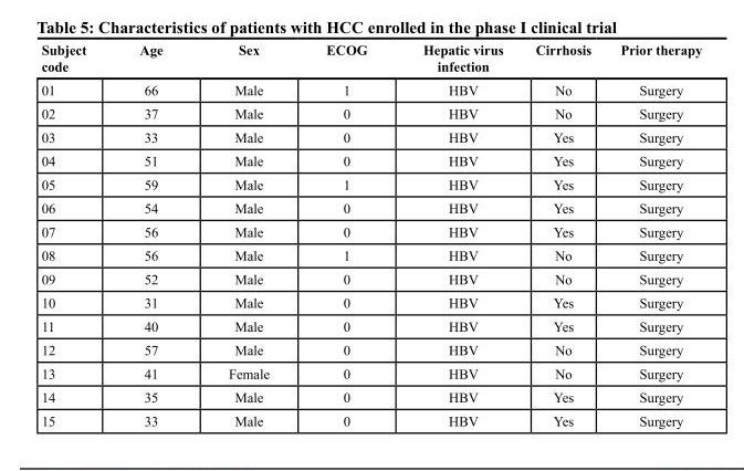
<table><thead><tr><td>Subject code</td><td>Age</td><td>Sex</td><td>ECOG</td><td>Hepatic virus infection</td><td>Cirrhosis</td><td>Prior therapy</td></tr></thead><tbody><tr><td>01</td><td>66</td><td>Male</td><td>1</td><td>HBV</td><td>No</td><td>Surgery</td></tr><tr><td>02</td><td>37</td><td>Male</td><td>0</td><td>HBV</td><td>No</td><td>Surgery</td></tr><tr><td>03</td><td>33</td><td>Male</td><td>0</td><td>HBV</td><td>Yes</td><td>Surgery</td></tr><tr><td>04</td><td>51</td><td>Male</td><td>0</td><td>HBV</td><td>Yes</td><td>Surgery</td></tr><tr><td>05</td><td>59</td><td>Male</td><td>1</td><td>HBV</td><td>Yes</td><td>Surgery</td></tr><tr><td>06</td><td>54</td><td>Male</td><td>0</td><td>HBV</td><td>Yes</td><td>Surgery</td></tr><tr><td>07</td><td>56</td><td>Male</td><td>0</td><td>HBV</td><td>Yes</td><td>Surgery</td></tr><tr><td>08</td><td>56</td><td>Male</td><td>1</td><td>HBV</td><td>No</td><td>Surgery</td></tr><tr><td>09</td><td>52</td><td>Male</td><td>0</td><td>HBV</td><td>No</td><td>Surgery</td></tr><tr><td>10</td><td>31</td><td>Male</td><td>0</td><td>HBV</td><td>Yes</td><td>Surgery</td></tr><tr><td>11</td><td>40</td><td>Male</td><td>0</td><td>HBV</td><td>Yes</td><td>Surgery</td></tr><tr><td>12</td><td>57</td><td>Male</td><td>0</td><td>HBV</td><td>No</td><td>Surgery</td></tr><tr><td>13</td><td>41</td><td>Female</td><td>0</td><td>HBV</td><td>No</td><td>Surgery</td></tr><tr><td>14</td><td>35</td><td>Male</td><td>0</td><td>HBV</td><td>Yes</td><td>Surgery</td></tr><tr><td>15</td><td>33</td><td>Male</td><td>0</td><td>HBV</td><td>Yes</td><td>Surgery</td></tr></tbody></table>